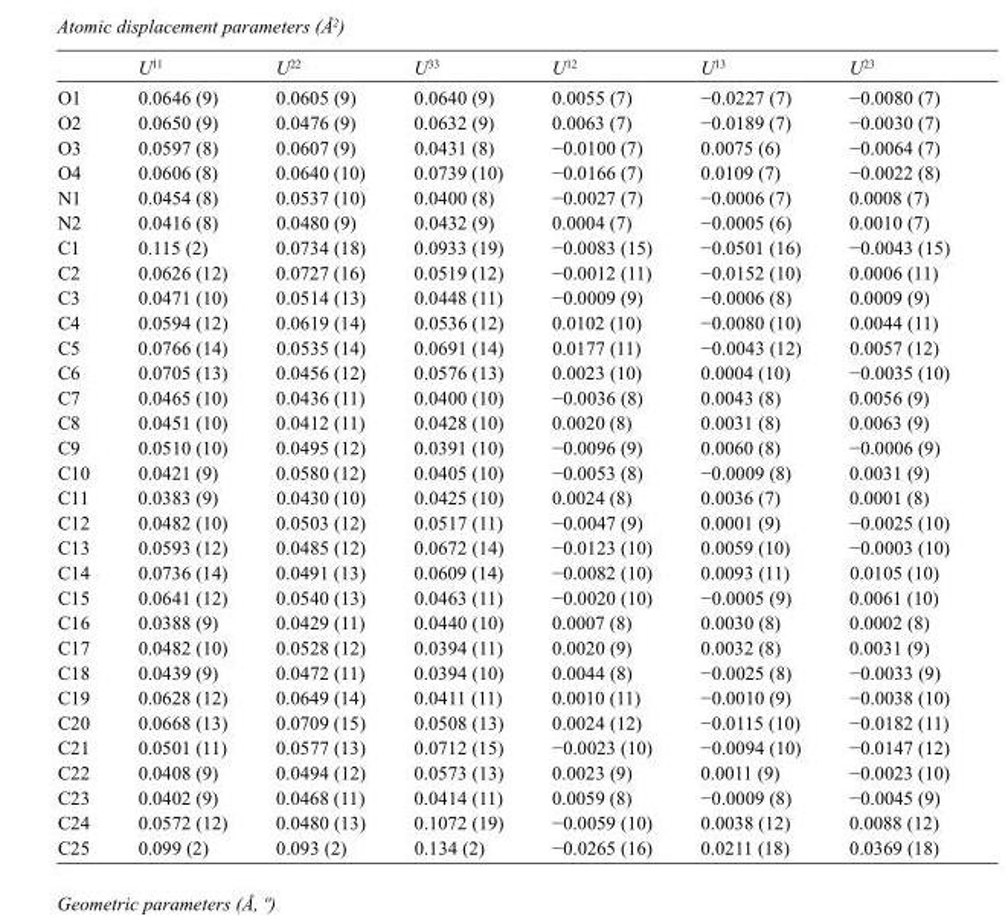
<table><thead><tr><td></td><td>U<sup>11</sup></td><td>U<sup>22</sup></td><td>U<sup>33</sup></td><td>U<sup>12</sup></td><td>U<sup>13</sup></td><td>U<sup>23</sup></td></tr></thead><tbody><tr><td>O1</td><td>0.0646 (9)</td><td>0.0605 (9)</td><td>0.0640 (9)</td><td>0.0055 (7)</td><td>−0.0227 (7)</td><td>−0.0080 (7)</td></tr><tr><td>O2</td><td>0.0650 (9)</td><td>0.0476 (9)</td><td>0.0632 (9)</td><td>0.0063 (7)</td><td>−0.0189 (7)</td><td>−0.0030 (7)</td></tr><tr><td>O3</td><td>0.0597 (8)</td><td>0.0607 (9)</td><td>0.0431 (8)</td><td>−0.0100 (7)</td><td>0.0075 (6)</td><td>−0.0064 (7)</td></tr><tr><td>O4</td><td>0.0606 (8)</td><td>0.0640 (10)</td><td>0.0739 (10)</td><td>−0.0166 (7)</td><td>0.0109 (7)</td><td>−0.0022 (8)</td></tr><tr><td>N1</td><td>0.0454 (8)</td><td>0.0537 (10)</td><td>0.0400 (8)</td><td>−0.0027 (7)</td><td>−0.0006 (7)</td><td>0.0008 (7)</td></tr><tr><td>N2</td><td>0.0416 (8)</td><td>0.0480 (9)</td><td>0.0432 (9)</td><td>0.0004 (7)</td><td>−0.0005 (6)</td><td>0.0010 (7)</td></tr><tr><td>C1</td><td>0.115 (2)</td><td>0.0734 (18)</td><td>0.0933 (19)</td><td>−0.0083 (15)</td><td>−0.0501 (16)</td><td>−0.0043 (15)</td></tr><tr><td>C2</td><td>0.0626 (12)</td><td>0.0727 (16)</td><td>0.0519 (12)</td><td>−0.0012 (11)</td><td>−0.0152 (10)</td><td>0.0006 (11)</td></tr><tr><td>C3</td><td>0.0471 (10)</td><td>0.0514 (13)</td><td>0.0448 (11)</td><td>−0.0009 (9)</td><td>−0.0006 (8)</td><td>0.0009 (9)</td></tr><tr><td>C4</td><td>0.0594 (12)</td><td>0.0619 (14)</td><td>0.0536 (12)</td><td>0.0102 (10)</td><td>−0.0080 (10)</td><td>0.0044 (11)</td></tr><tr><td>C5</td><td>0.0766 (14)</td><td>0.0535 (14)</td><td>0.0691 (14)</td><td>0.0177 (11)</td><td>−0.0043 (12)</td><td>0.0057 (12)</td></tr><tr><td>C6</td><td>0.0705 (13)</td><td>0.0456 (12)</td><td>0.0576 (13)</td><td>0.0023 (10)</td><td>0.0004 (10)</td><td>−0.0035 (10)</td></tr><tr><td>C7</td><td>0.0465 (10)</td><td>0.0436 (11)</td><td>0.0400 (10)</td><td>−0.0036 (8)</td><td>0.0043 (8)</td><td>0.0056 (9)</td></tr><tr><td>C8</td><td>0.0451 (10)</td><td>0.0412 (11)</td><td>0.0428 (10)</td><td>0.0020 (8)</td><td>0.0031 (8)</td><td>0.0063 (9)</td></tr><tr><td>C9</td><td>0.0510 (10)</td><td>0.0495 (12)</td><td>0.0391 (10)</td><td>−0.0096 (9)</td><td>0.0060 (8)</td><td>−0.0006 (9)</td></tr><tr><td>C10</td><td>0.0421 (9)</td><td>0.0580 (12)</td><td>0.0405 (10)</td><td>−0.0053 (8)</td><td>−0.0009 (8)</td><td>0.0031 (9)</td></tr><tr><td>C11</td><td>0.0383 (9)</td><td>0.0430 (10)</td><td>0.0425 (10)</td><td>0.0024 (8)</td><td>0.0036 (7)</td><td>0.0001 (8)</td></tr><tr><td>C12</td><td>0.0482 (10)</td><td>0.0503 (12)</td><td>0.0517 (11)</td><td>−0.0047 (9)</td><td>0.0001 (9)</td><td>−0.0025 (10)</td></tr><tr><td>C13</td><td>0.0593 (12)</td><td>0.0485 (12)</td><td>0.0672 (14)</td><td>−0.0123 (10)</td><td>0.0059 (10)</td><td>−0.0003 (10)</td></tr><tr><td>C14</td><td>0.0736 (14)</td><td>0.0491 (13)</td><td>0.0609 (14)</td><td>−0.0082 (10)</td><td>0.0093 (11)</td><td>0.0105 (10)</td></tr><tr><td>C15</td><td>0.0641 (12)</td><td>0.0540 (13)</td><td>0.0463 (11)</td><td>−0.0020 (10)</td><td>−0.0005 (9)</td><td>0.0061 (10)</td></tr><tr><td>C16</td><td>0.0388 (9)</td><td>0.0429 (11)</td><td>0.0440 (10)</td><td>0.0007 (8)</td><td>0.0030 (8)</td><td>0.0002 (8)</td></tr><tr><td>C17</td><td>0.0482 (10)</td><td>0.0528 (12)</td><td>0.0394 (11)</td><td>0.0020 (9)</td><td>0.0032 (8)</td><td>0.0031 (9)</td></tr><tr><td>C18</td><td>0.0439 (9)</td><td>0.0472 (11)</td><td>0.0394 (10)</td><td>0.0044 (8)</td><td>−0.0025 (8)</td><td>−0.0033 (9)</td></tr><tr><td>C19</td><td>0.0628 (12)</td><td>0.0649 (14)</td><td>0.0411 (11)</td><td>0.0010 (11)</td><td>−0.0010 (9)</td><td>−0.0038 (10)</td></tr><tr><td>C20</td><td>0.0668 (13)</td><td>0.0709 (15)</td><td>0.0508 (13)</td><td>0.0024 (12)</td><td>−0.0115 (10)</td><td>−0.0182 (11)</td></tr><tr><td>C21</td><td>0.0501 (11)</td><td>0.0577 (13)</td><td>0.0712 (15)</td><td>−0.0023 (10)</td><td>−0.0094 (10)</td><td>−0.0147 (12)</td></tr><tr><td>C22</td><td>0.0408 (9)</td><td>0.0494 (12)</td><td>0.0573 (13)</td><td>0.0023 (9)</td><td>0.0011 (9)</td><td>−0.0023 (10)</td></tr><tr><td>C23</td><td>0.0402 (9)</td><td>0.0468 (11)</td><td>0.0414 (11)</td><td>0.0059 (8)</td><td>−0.0009 (8)</td><td>−0.0045 (9)</td></tr><tr><td>C24</td><td>0.0572 (12)</td><td>0.0480 (13)</td><td>0.1072 (19)</td><td>−0.0059 (10)</td><td>0.0038 (12)</td><td>0.0088 (12)</td></tr><tr><td>C25</td><td>0.099 (2)</td><td>0.093 (2)</td><td>0.134 (2)</td><td>−0.0265 (16)</td><td>0.0211 (18)</td><td>0.0369 (18)</td></tr></tbody></table>